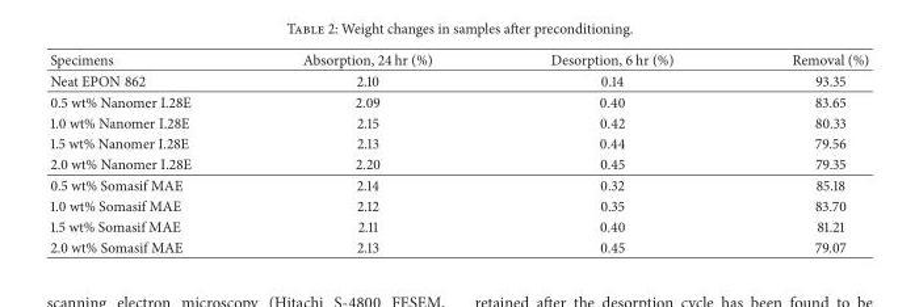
<table><thead><tr><td>Specimens</td><td>Absorption, 24 hr (%)</td><td>Desorption, 6 hr (%)</td><td>Removal (%)</td></tr></thead><tbody><tr><td>Neat EPON 862</td><td>2.10</td><td>0.14</td><td>93.35</td></tr><tr><td>0.5 wt% Nanomer I.28E</td><td>2.09</td><td>0.40</td><td>83.65</td></tr><tr><td>1.0 wt% Nanomer I.28E</td><td>2.15</td><td>0.42</td><td>80.33</td></tr><tr><td>1.5 wt% Nanomer I.28E</td><td>2.13</td><td>0.44</td><td>79.56</td></tr><tr><td>2.0 wt% Nanomer I.28E</td><td>2.20</td><td>0.45</td><td>79.35</td></tr><tr><td>0.5 wt% Somasif MAE</td><td>2.14</td><td>0.32</td><td>85.18</td></tr><tr><td>1.0 wt% Somasif MAE</td><td>2.12</td><td>0.35</td><td>83.70</td></tr><tr><td>1.5 wt% Somasif MAE</td><td>2.11</td><td>0.40</td><td>81.21</td></tr><tr><td>2.0 wt% Somasif MAE</td><td>2.13</td><td>0.45</td><td>79.07</td></tr></tbody></table>